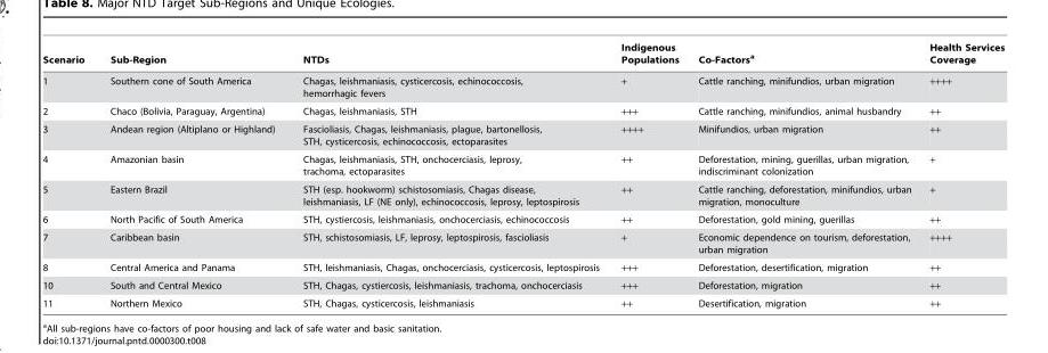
<table><thead><tr><td>Scenario</td><td>Sub-Region</td><td>NTDs</td><td>Indigenous Populations</td><td>Co-Factors<sup>a</sup></td><td>Health Services Coverage</td></tr></thead><tbody><tr><td>1</td><td>Southern cone of South America</td><td>Chagas, leishmaniasis, cysticercosis, echinococcosis, hemorrhagic fevers</td><td>+</td><td>Cattle ranching, minifundios, urban migration</td><td>++++</td></tr><tr><td>2</td><td>Chaco (Bolivia, Paraguay, Argentina)</td><td>Chagas, leishmaniasis, STH</td><td>+++</td><td>Cattle ranching, minifundios, animal husbandry</td><td>++</td></tr><tr><td>3</td><td>Andean region (Altiplano or Highland)</td><td>Fascioliasis, Chagas, leishmaniasis, plague, bartonellosis, STH, cysticercosis, echinococcosis, ectoparasites</td><td>++++</td><td>Minifundios, urban migration</td><td>++</td></tr><tr><td>4</td><td>Amazonian basin</td><td>Chagas, leishmaniasis, STH, onchocerciasis, leprosy, trachoma, ectoparasites</td><td>++</td><td>Deforestation, mining, guerillas, urban migration, indiscriminant colonization</td><td>+</td></tr><tr><td>5</td><td>Eastern Brazil</td><td>STH (esp. hookworm) schistosomiasis, Chagas disease, leishmaniasis, LF (NE only), echinococcosis, leprosy, leptospirosis</td><td>++</td><td>Cattle ranching, deforestation, minifundios, urban migration, monoculture</td><td>+</td></tr><tr><td>6</td><td>North Pacific of South America</td><td>STH, cystiercosis, leishmaniasis, onchocerciasis, echinococcosis</td><td>++</td><td>Deforestation, gold mining, guerillas</td><td>++</td></tr><tr><td>7</td><td>Caribbean basin</td><td>STH, schistosomiasis, LF, leprosy, leptospirosis, fascioliasis</td><td>+</td><td>Economic dependence on tourism, deforestation, urban migration</td><td>++++</td></tr><tr><td>8</td><td>Central America and Panama</td><td>STH, leishmaniasis, Chagas, onchocerciasis, cysticercosis, leptospirosis</td><td>+++</td><td>Deforestation, desertification, migration</td><td>++</td></tr><tr><td>10</td><td>South and Central Mexico</td><td>STH, Chagas, cystiercosis, leishmaniasis, trachoma, onchocerciasis</td><td>+++</td><td>Deforestation, migration</td><td>++</td></tr><tr><td>11</td><td>Northern Mexico</td><td>STH, Chagas, cysticercosis, leishmaniasis</td><td>++</td><td>Desertification, migration</td><td>++</td></tr></tbody></table>